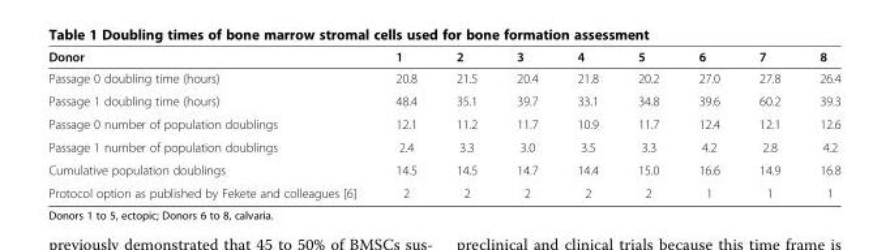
<table><thead><tr><td>Donor</td><td>1</td><td>2</td><td>3</td><td>4</td><td>5</td><td>6</td><td>7</td><td>8</td></tr></thead><tbody><tr><td>Passage 0 doubling time (hours)</td><td>20.8</td><td>21.5</td><td>20.4</td><td>21.8</td><td>20.2</td><td>27.0</td><td>27.8</td><td>26.4</td></tr><tr><td>Passage 1 doubling time (hours)</td><td>48.4</td><td>35.1</td><td>39.7</td><td>33.1</td><td>34.8</td><td>39.6</td><td>60.2</td><td>39.3</td></tr><tr><td>Passage 0 number of population doublings</td><td>12.1</td><td>11.2</td><td>11.7</td><td>10.9</td><td>11.7</td><td>12.4</td><td>12.1</td><td>12.6</td></tr><tr><td>Passage 1 number of population doublings</td><td>2.4</td><td>3.3</td><td>3.0</td><td>3.5</td><td>3.3</td><td>4.2</td><td>2.8</td><td>4.2</td></tr><tr><td>Cumulative population doublings</td><td>14.5</td><td>14.5</td><td>14.7</td><td>14.4</td><td>15.0</td><td>16.6</td><td>14.9</td><td>16.8</td></tr><tr><td>Protocol option as published by Fekete and colleagues [6]</td><td>2</td><td>2</td><td>2</td><td>2</td><td>2</td><td>1</td><td>1</td><td>1</td></tr></tbody></table>